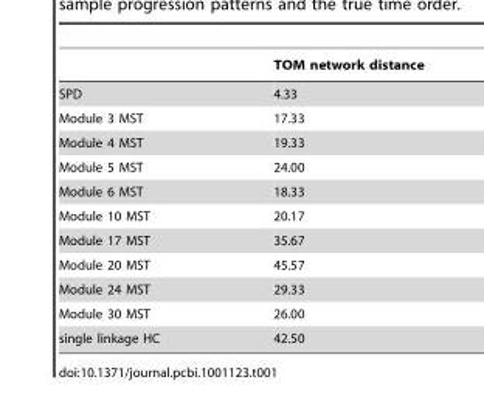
<table><thead><tr><td></td><td>TOM network distance</td></tr></thead><tbody><tr><td>SPD</td><td>4.33</td></tr><tr><td>Module 3 MST</td><td>17.33</td></tr><tr><td>Module 4 MST</td><td>19.33</td></tr><tr><td>Module 5 MST</td><td>24.00</td></tr><tr><td>Module 6 MST</td><td>18.33</td></tr><tr><td>Module 10 MST</td><td>20.17</td></tr><tr><td>Module 17 MST</td><td>35.67</td></tr><tr><td>Module 20 MST</td><td>45.57</td></tr><tr><td>Module 24 MST</td><td>29.33</td></tr><tr><td>Module 30 MST</td><td>26.00</td></tr><tr><td>single linkage HC</td><td>42.50</td></tr></tbody></table>